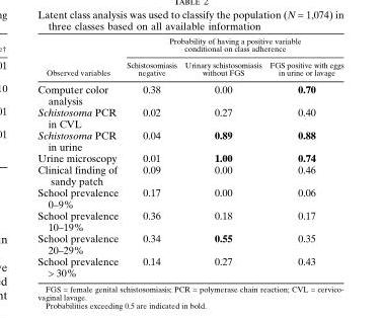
<table><thead><tr><td rowspan="2">Observed variables</td><td colspan="3">Probability of having a positive variable conditional on class adherence</td></tr><tr><td>Schistosomiasis negative</td><td>Urinary schistosomiasis without FGS</td><td>FGS positive with eggs in urine or lavage</td></tr></thead><tbody><tr><td>Computer color analysis</td><td>0.38</td><td>0.00</td><td>0.70</td></tr><tr><td>Schistosoma PCR in CVL</td><td>0.02</td><td>0.27</td><td>0.40</td></tr><tr><td>Schistosoma PCR in urine</td><td>0.04</td><td>0.89</td><td>0.88</td></tr><tr><td>Urine microscopy</td><td>0.01</td><td>1.00</td><td>0.74</td></tr><tr><td>Clinical finding of sandy patch</td><td>0.09</td><td>0.00</td><td>0.46</td></tr><tr><td>School prevalence 0–9%</td><td>0.17</td><td>0.00</td><td>0.06</td></tr><tr><td>School prevalence 10–19%</td><td>0.36</td><td>0.18</td><td>0.17</td></tr><tr><td>School prevalence 20–29%</td><td>0.34</td><td>0.55</td><td>0.35</td></tr><tr><td>School prevalence &gt; 30%</td><td>0.14</td><td>0.27</td><td>0.43</td></tr></tbody></table>